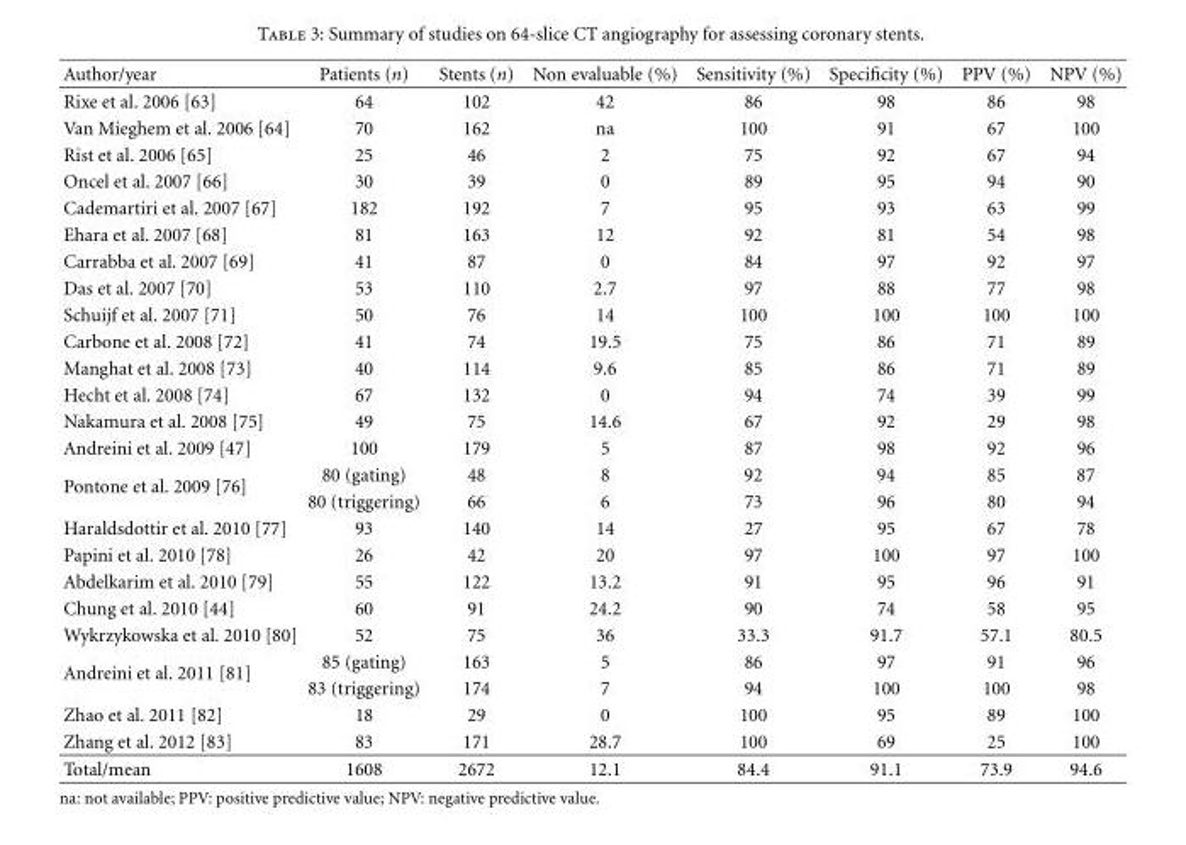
<table><thead><tr><td>Author/year</td><td>Patients (n)</td><td>Stents (n)</td><td>Non evaluable (%)</td><td>Sensitivity (%)</td><td>Specificity (%)</td><td>PPV (%)</td><td>NPV (%)</td></tr></thead><tbody><tr><td>Rixe et al. 2006 [63]</td><td>64</td><td>102</td><td>42</td><td>86</td><td>98</td><td>86</td><td>98</td></tr><tr><td>Van Mieghem et al. 2006 [64]</td><td>70</td><td>162</td><td>na</td><td>100</td><td>91</td><td>67</td><td>100</td></tr><tr><td>Rist et al. 2006 [65]</td><td>25</td><td>46</td><td>2</td><td>75</td><td>92</td><td>67</td><td>94</td></tr><tr><td>Oncel et al. 2007 [66]</td><td>30</td><td>39</td><td>0</td><td>89</td><td>95</td><td>94</td><td>90</td></tr><tr><td>Cademartiri et al. 2007 [67]</td><td>182</td><td>192</td><td>7</td><td>95</td><td>93</td><td>63</td><td>99</td></tr><tr><td>Ehara et al. 2007 [68]</td><td>81</td><td>163</td><td>12</td><td>92</td><td>81</td><td>54</td><td>98</td></tr><tr><td>Carrabba et al. 2007 [69]</td><td>41</td><td>87</td><td>0</td><td>84</td><td>97</td><td>92</td><td>97</td></tr><tr><td>Das et al. 2007 [70]</td><td>53</td><td>110</td><td>2.7</td><td>97</td><td>88</td><td>77</td><td>98</td></tr><tr><td>Schuijf et al. 2007 [71]</td><td>50</td><td>76</td><td>14</td><td>100</td><td>100</td><td>100</td><td>100</td></tr><tr><td>Carbone et al. 2008 [72]</td><td>41</td><td>74</td><td>19.5</td><td>75</td><td>86</td><td>71</td><td>89</td></tr><tr><td>Manghat et al. 2008 [73]</td><td>40</td><td>114</td><td>9.6</td><td>85</td><td>86</td><td>71</td><td>89</td></tr><tr><td>Hecht et al. 2008 [74]</td><td>67</td><td>132</td><td>0</td><td>94</td><td>74</td><td>39</td><td>99</td></tr><tr><td>Nakamura et al. 2008 [75]</td><td>49</td><td>75</td><td>14.6</td><td>67</td><td>92</td><td>29</td><td>98</td></tr><tr><td>Andreini et al. 2009 [47]</td><td>100</td><td>179</td><td>5</td><td>87</td><td>98</td><td>92</td><td>96</td></tr><tr><td rowspan="2">Pontone et al. 2009 [76]</td><td>80 (gating)</td><td>48</td><td>8</td><td>92</td><td>94</td><td>85</td><td>87</td></tr><tr><td>80 (triggering)</td><td>66</td><td>6</td><td>73</td><td>96</td><td>80</td><td>94</td></tr><tr><td>Haraldsdottir et al. 2010 [77]</td><td>93</td><td>140</td><td>14</td><td>27</td><td>95</td><td>67</td><td>78</td></tr><tr><td>Papini et al. 2010 [78]</td><td>26</td><td>42</td><td>20</td><td>97</td><td>100</td><td>97</td><td>100</td></tr><tr><td>Abdelkarim et al. 2010 [79]</td><td>55</td><td>122</td><td>13.2</td><td>91</td><td>95</td><td>96</td><td>91</td></tr><tr><td>Chung et al. 2010 [44]</td><td>60</td><td>91</td><td>24.2</td><td>90</td><td>74</td><td>58</td><td>95</td></tr><tr><td>Wykrzykowska et al. 2010 [80]</td><td>52</td><td>75</td><td>36</td><td>33.3</td><td>91.7</td><td>57.1</td><td>80.5</td></tr><tr><td rowspan="2">Andreini et al. 2011 [81]</td><td>85 (gating)</td><td>163</td><td>5</td><td>86</td><td>97</td><td>91</td><td>96</td></tr><tr><td>83 (triggering)</td><td>174</td><td>7</td><td>94</td><td>100</td><td>100</td><td>98</td></tr><tr><td>Zhao et al. 2011 [82]</td><td>18</td><td>29</td><td>0</td><td>100</td><td>95</td><td>89</td><td>100</td></tr><tr><td>Zhang et al. 2012 [83]</td><td>83</td><td>171</td><td>28.7</td><td>100</td><td>69</td><td>25</td><td>100</td></tr><tr><td>Total/mean</td><td>1608</td><td>2672</td><td>12.1</td><td>84.4</td><td>91.1</td><td>73.9</td><td>94.6</td></tr></tbody></table>